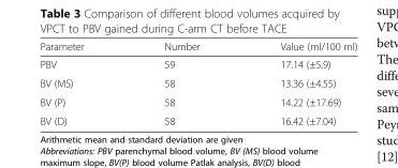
<table><thead><tr><td>Parameter</td><td>Number</td><td>Value (ml/100 ml)</td></tr></thead><tbody><tr><td>PBV</td><td>59</td><td>17.14 (±5.9)</td></tr><tr><td>BV (MS)</td><td>58</td><td>13.36 (±4.55)</td></tr><tr><td>BV (P)</td><td>58</td><td>14.22 (±17.69)</td></tr><tr><td>BV (D)</td><td>58</td><td>16.42 (±7.04)</td></tr></tbody></table>